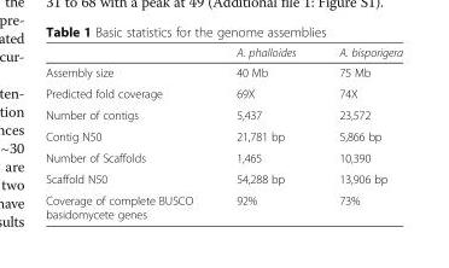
<table><thead><tr><td></td><td>A. phalloides</td><td>A. bisporigera</td></tr></thead><tbody><tr><td>Assembly size</td><td>40 Mb</td><td>75 Mb</td></tr><tr><td>Predicted fold coverage</td><td>69X</td><td>74X</td></tr><tr><td>Number of contigs</td><td>5,437</td><td>23,572</td></tr><tr><td>Contig N50</td><td>21,781 bp</td><td>5,866 bp</td></tr><tr><td>Number of Scaffolds</td><td>1,465</td><td>10,390</td></tr><tr><td>Scaffold N50</td><td>54,288 bp</td><td>13,906 bp</td></tr><tr><td>Coverage of complete BUSCO basidomycete genes</td><td>92%</td><td>73%</td></tr></tbody></table>